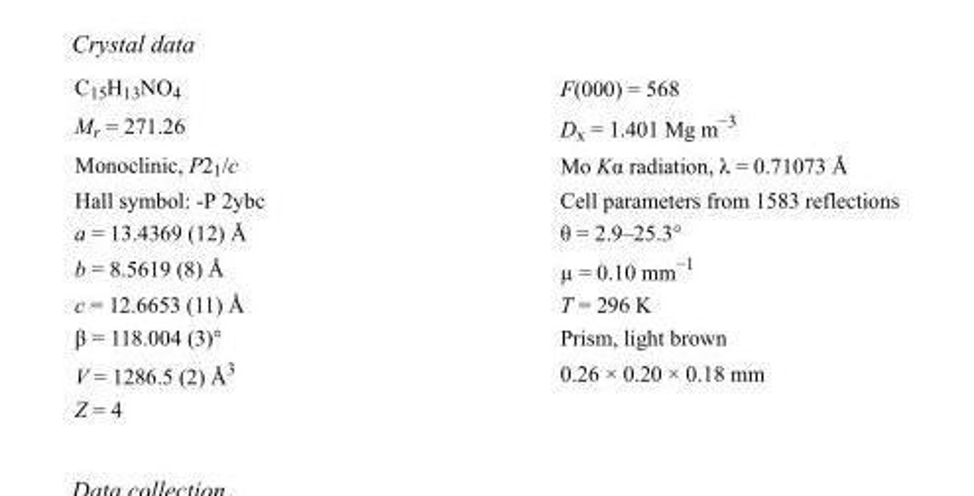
<table><tbody><tr><td>C<sub>15</sub>H<sub>13</sub>NO<sub>4</sub></td><td>F(000) = 568</td></tr><tr><td>M<sub>r</sub> = 271.26</td><td>D<sub>x</sub> = 1.401 Mg m<sup>−3</sup></td></tr><tr><td>Monoclinic, P2<sub>1</sub>/c</td><td>Mo Kα radiation, λ = 0.71073 Å</td></tr><tr><td>Hall symbol: -P 2ybc</td><td>Cell parameters from 1583 reflections</td></tr><tr><td>a = 13.4369 (12) Å</td><td>θ = 2.9–25.3°</td></tr><tr><td>b = 8.5619 (8) Å</td><td>µ = 0.10 mm<sup>−1</sup></td></tr><tr><td>c = 12.6653 (11) Å</td><td>T = 296 K</td></tr><tr><td>β = 118.004 (3)°</td><td>Prism, light brown</td></tr><tr><td>V = 1286.5 (2) Å<sup>3</sup></td><td>0.26 × 0.20 × 0.18 mm</td></tr><tr><td>Z = 4</td><td></td></tr></tbody></table>